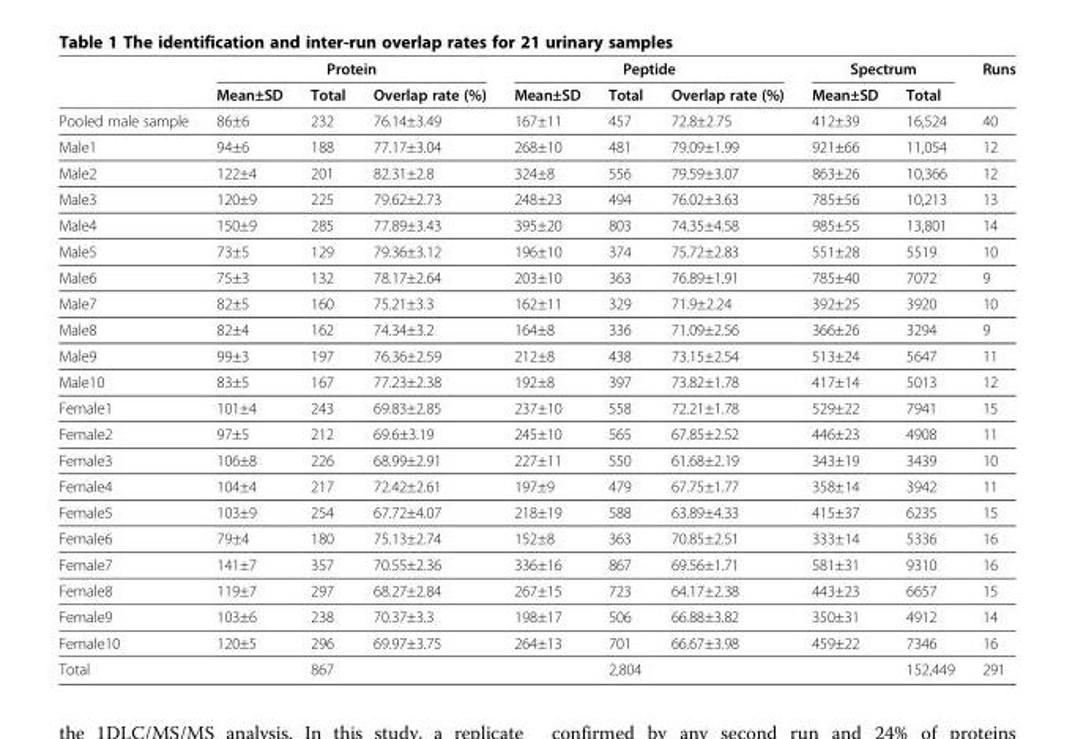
<table><thead><tr><td rowspan="2"></td><td colspan="3">Protein</td><td colspan="3">Peptide</td><td colspan="2">Spectrum</td><td rowspan="2">Runs</td></tr><tr><td>Mean±SD</td><td>Total</td><td>Overlap rate (%)</td><td>Mean±SD</td><td>Total</td><td>Overlap rate (%)</td><td>Mean±SD</td><td>Total</td></tr></thead><tbody><tr><td>Pooled male sample</td><td>86±6</td><td>232</td><td>76.14±3.49</td><td>167±11</td><td>457</td><td>72.8±2.75</td><td>412±39</td><td>16,524</td><td>40</td></tr><tr><td>Male1</td><td>94±6</td><td>188</td><td>77.17±3.04</td><td>268±10</td><td>481</td><td>79.09±1.99</td><td>921±66</td><td>11,054</td><td>12</td></tr><tr><td>Male2</td><td>122±4</td><td>201</td><td>82.31±2.8</td><td>324±8</td><td>556</td><td>79.59±3.07</td><td>863±26</td><td>10,366</td><td>12</td></tr><tr><td>Male3</td><td>120±9</td><td>225</td><td>79.62±2.73</td><td>248±23</td><td>494</td><td>76.02±3.63</td><td>785±56</td><td>10,213</td><td>13</td></tr><tr><td>Male4</td><td>150±9</td><td>285</td><td>77.89±3.43</td><td>395±20</td><td>803</td><td>74.35±4.58</td><td>985±55</td><td>13,801</td><td>14</td></tr><tr><td>Male5</td><td>73±5</td><td>129</td><td>79.36±3.12</td><td>196±10</td><td>374</td><td>75.72±2.83</td><td>551±28</td><td>5519</td><td>10</td></tr><tr><td>Male6</td><td>75±3</td><td>132</td><td>78.17±2.64</td><td>203±10</td><td>363</td><td>76.89±1.91</td><td>785±40</td><td>7072</td><td>9</td></tr><tr><td>Male7</td><td>82±5</td><td>160</td><td>75.21±3.3</td><td>162±11</td><td>329</td><td>71.9±2.24</td><td>392±25</td><td>3920</td><td>10</td></tr><tr><td>Male8</td><td>82±4</td><td>162</td><td>74.34±3.2</td><td>164±8</td><td>336</td><td>71.09±2.56</td><td>366±26</td><td>3294</td><td>9</td></tr><tr><td>Male9</td><td>99±3</td><td>197</td><td>76.36±2.59</td><td>212±8</td><td>438</td><td>73.15±2.54</td><td>513±24</td><td>5647</td><td>11</td></tr><tr><td>Male10</td><td>83±5</td><td>167</td><td>77.23±2.38</td><td>192±8</td><td>397</td><td>73.82±1.78</td><td>417±14</td><td>5013</td><td>12</td></tr><tr><td>Female1</td><td>101±4</td><td>243</td><td>69.83±2.85</td><td>237±10</td><td>558</td><td>72.21±1.78</td><td>529±22</td><td>7941</td><td>15</td></tr><tr><td>Female2</td><td>97±5</td><td>212</td><td>69.6±3.19</td><td>245±10</td><td>565</td><td>67.85±2.52</td><td>446±23</td><td>4908</td><td>11</td></tr><tr><td>Female3</td><td>106±8</td><td>226</td><td>68.99±2.91</td><td>227±11</td><td>550</td><td>61.68±2.19</td><td>343±19</td><td>3439</td><td>10</td></tr><tr><td>Female4</td><td>104±4</td><td>217</td><td>72.42±2.61</td><td>197±9</td><td>479</td><td>67.75±1.77</td><td>358±14</td><td>3942</td><td>11</td></tr><tr><td>Female5</td><td>103±9</td><td>254</td><td>67.72±4.07</td><td>218±19</td><td>588</td><td>63.89±4.33</td><td>415±37</td><td>6235</td><td>15</td></tr><tr><td>Female6</td><td>79±4</td><td>180</td><td>75.13±2.74</td><td>152±8</td><td>363</td><td>70.85±2.51</td><td>333±14</td><td>5336</td><td>16</td></tr><tr><td>Female7</td><td>141±7</td><td>357</td><td>70.55±2.36</td><td>336±16</td><td>867</td><td>69.56±1.71</td><td>581±31</td><td>9310</td><td>16</td></tr><tr><td>Female8</td><td>119±7</td><td>297</td><td>68.27±2.84</td><td>267±15</td><td>723</td><td>64.17±2.38</td><td>443±23</td><td>6657</td><td>15</td></tr><tr><td>Female9</td><td>103±6</td><td>238</td><td>70.37±3.3</td><td>198±17</td><td>506</td><td>66.88±3.82</td><td>350±31</td><td>4912</td><td>14</td></tr><tr><td>Female10</td><td>120±5</td><td>296</td><td>69.97±3.75</td><td>264±13</td><td>701</td><td>66.67±3.98</td><td>459±22</td><td>7346</td><td>16</td></tr><tr><td>Total</td><td></td><td>867</td><td></td><td></td><td>2,804</td><td></td><td></td><td>152,449</td><td>291</td></tr></tbody></table>